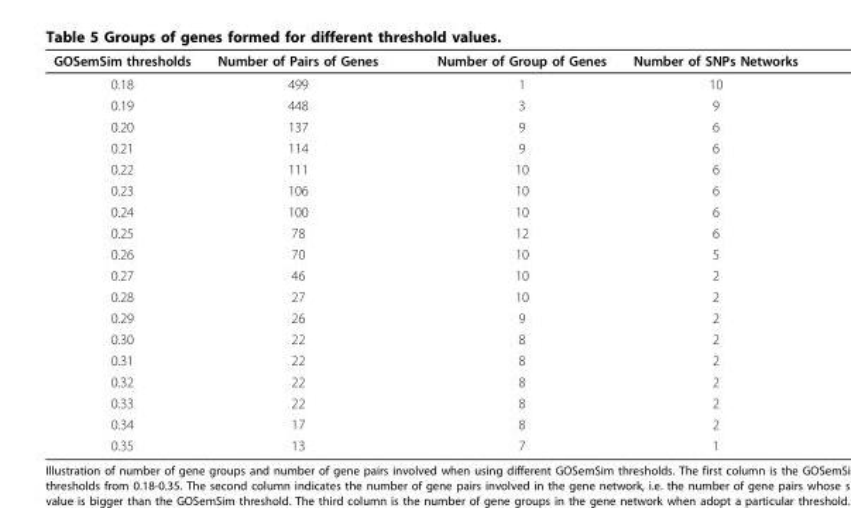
<table><thead><tr><td>GOSemSim thresholds</td><td>Number of Pairs of Genes</td><td>Number of Group of Genes</td><td>Number of SNPs Networks</td></tr></thead><tbody><tr><td>0.18</td><td>499</td><td>1</td><td>10</td></tr><tr><td>0.19</td><td>448</td><td>3</td><td>9</td></tr><tr><td>0.20</td><td>137</td><td>9</td><td>6</td></tr><tr><td>0.21</td><td>114</td><td>9</td><td>6</td></tr><tr><td>0.22</td><td>111</td><td>10</td><td>6</td></tr><tr><td>0.23</td><td>106</td><td>10</td><td>6</td></tr><tr><td>0.24</td><td>100</td><td>10</td><td>6</td></tr><tr><td>0.25</td><td>78</td><td>12</td><td>6</td></tr><tr><td>0.26</td><td>70</td><td>10</td><td>5</td></tr><tr><td>0.27</td><td>46</td><td>10</td><td>2</td></tr><tr><td>0.28</td><td>27</td><td>10</td><td>2</td></tr><tr><td>0.29</td><td>26</td><td>9</td><td>2</td></tr><tr><td>0.30</td><td>22</td><td>8</td><td>2</td></tr><tr><td>0.31</td><td>22</td><td>8</td><td>2</td></tr><tr><td>0.32</td><td>22</td><td>8</td><td>2</td></tr><tr><td>0.33</td><td>22</td><td>8</td><td>2</td></tr><tr><td>0.34</td><td>17</td><td>8</td><td>2</td></tr><tr><td>0.35</td><td>13</td><td>7</td><td>1</td></tr></tbody></table>